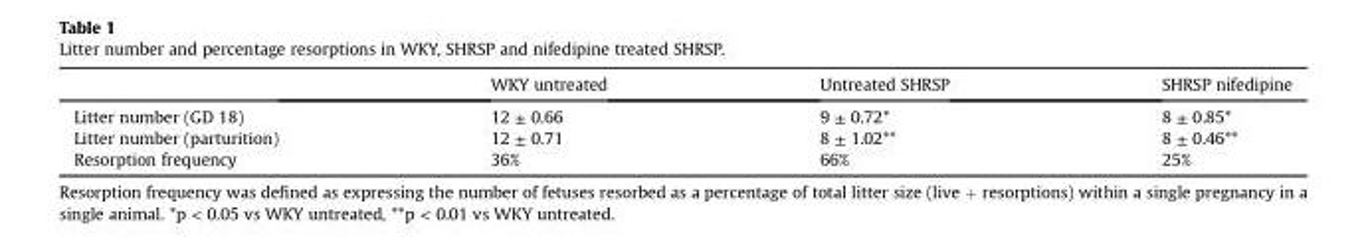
<table><thead><tr><td></td><td>WKY untreated</td><td>Untreated SHRSP</td><td>SHRSP nifedipine</td></tr></thead><tbody><tr><td>Litter number (GD 18)</td><td>12 ± 0.66</td><td>9 ± 0.72*</td><td>8 ± 0.85*</td></tr><tr><td>Litter number (parturition)</td><td>12 ± 0.71</td><td>8 ± 1.02**</td><td>8 ± 0.46**</td></tr><tr><td>Resorption frequency</td><td>36%</td><td>66%</td><td>25%</td></tr></tbody></table>